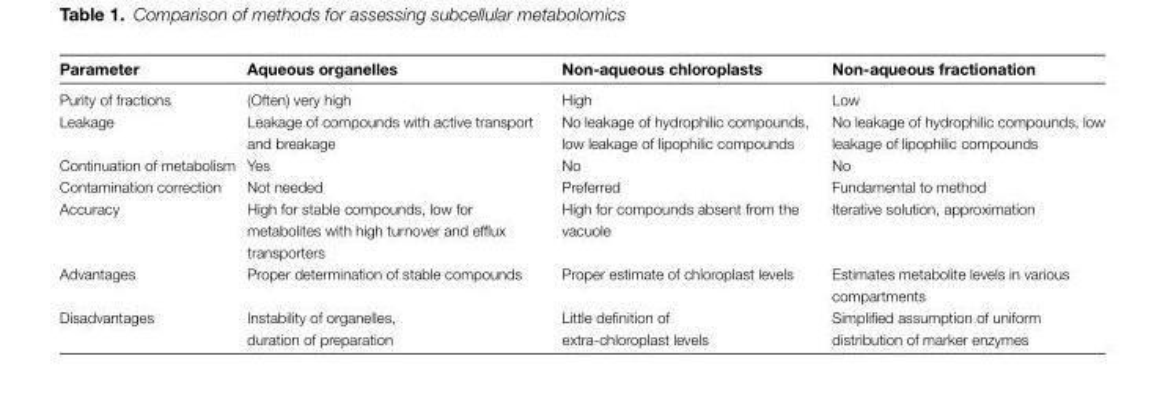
<table><thead><tr><td>Parameter</td><td>Aqueous organelles</td><td>Non-aqueous chloroplasts</td><td>Non-aqueous fractionation</td></tr></thead><tbody><tr><td>Purity of fractions</td><td>(Often) very high</td><td>High</td><td>Low</td></tr><tr><td>Leakage</td><td>Leakage of compounds with active transport and breakage</td><td>No leakage of hydrophilic compounds, low leakage of lipophilic compounds</td><td>No leakage of hydrophilic compounds, low leakage of lipophilic compounds</td></tr><tr><td>Continuation of metabolism</td><td>Yes</td><td>No</td><td>No</td></tr><tr><td>Contamination correction</td><td>Not needed</td><td>Preferred</td><td>Fundamental to method</td></tr><tr><td>Accuracy</td><td>High for stable compounds, low for metabolites with high turnover and efflux transporters</td><td>High for compounds absent from the vacuole</td><td>Iterative solution, approximation</td></tr><tr><td>Advantages</td><td>Proper determination of stable compounds</td><td>Proper estimate of chloroplast levels</td><td>Estimates metabolite levels in various compartments</td></tr><tr><td>Disadvantages</td><td>Instability of organelles, duration of preparation</td><td>Little definition of extra-chloroplast levels</td><td>Simplified assumption of uniform distribution of marker enzymes</td></tr></tbody></table>